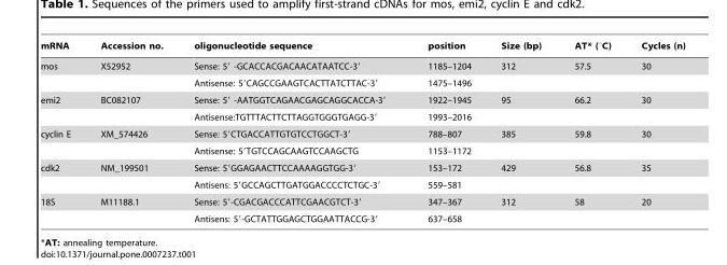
<table><thead><tr><td>mRNA</td><td>Accession no.</td><td>oligonucleotide sequence</td><td>position</td><td>Size (bp)</td><td>AT* (°C)</td><td>Cycles (n)</td></tr></thead><tbody><tr><td rowspan="2">mos</td><td>X52952</td><td>Sense: 5′ -GCACCACGACAACATAATCC-3′</td><td>1185–1204</td><td>312</td><td>57.5</td><td>30</td></tr><tr><td></td><td>Antisense: 5′CAGCCGAAGTCACTTATCTTAC-3′</td><td>1475–1496</td><td></td><td></td><td></td></tr><tr><td rowspan="2">emi2</td><td>BC082107</td><td>Sense: 5′ -AATGGTCAGAACGAGCAGGCACCA-3′</td><td>1922–1945</td><td>95</td><td>66.2</td><td>30</td></tr><tr><td></td><td>Antisense:TGTTTACTTCTTAGGTGGGTGAGG-3′</td><td>1993–2016</td><td></td><td></td><td></td></tr><tr><td rowspan="2">cyclin E</td><td>XM_574426</td><td>Sense: 5′CTGACCATTGTGTCCTGGCT-3′</td><td>788–807</td><td>385</td><td>59.8</td><td>30</td></tr><tr><td></td><td>Antisense: 5′TGTCCAGCAAGTCCAAGCTG</td><td>1153–1172</td><td></td><td></td><td></td></tr><tr><td rowspan="2">cdk2</td><td>NM_199501</td><td>Sense: 5′GGAGAACTTCCAAAAGGTGG-3′</td><td>153–172</td><td>429</td><td>56.8</td><td>35</td></tr><tr><td></td><td>Antisens: 5′GCCAGCTTGATGGACCCCTCTGC-3′</td><td>559–581</td><td></td><td></td><td></td></tr><tr><td rowspan="2">18S</td><td>M11188.1</td><td>Sense: 5′-CGACGACCCATTCGAACGTCT-3′</td><td>347–367</td><td>312</td><td>58</td><td>20</td></tr><tr><td></td><td>Antisens: 5′-GCTATTGGAGCTGGAATTACCG-3′</td><td>637–658</td><td></td><td></td><td></td></tr></tbody></table>